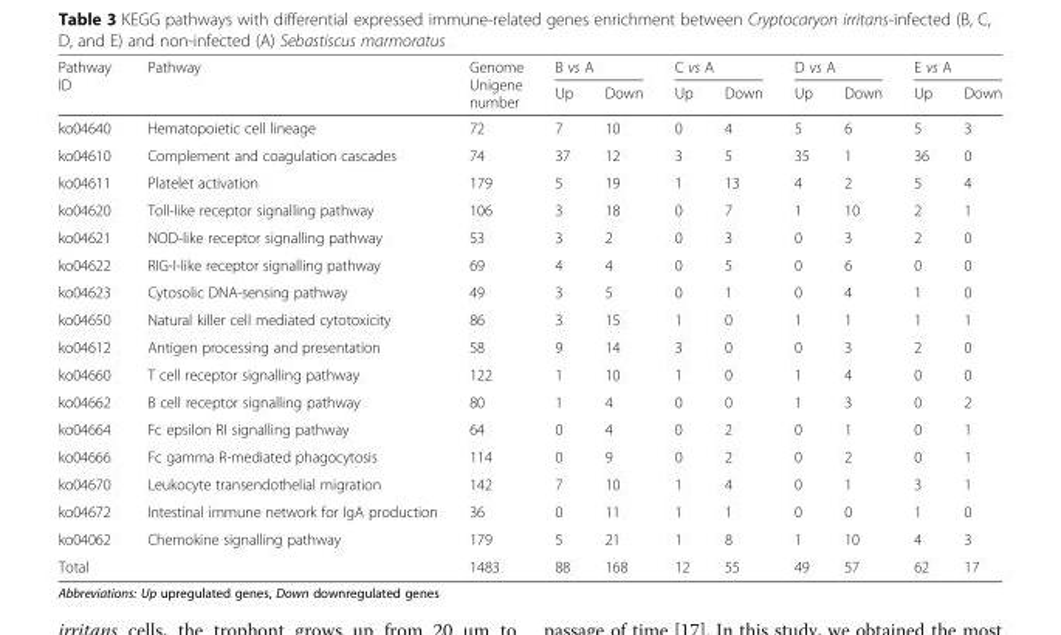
<table><thead><tr><td rowspan="2">Pathway ID</td><td rowspan="2">Pathway</td><td rowspan="2">Genome Unigene number</td><td colspan="2">B vs A</td><td colspan="2">C vs A</td><td colspan="2">D vs A</td><td colspan="2">E vs A</td></tr><tr><td>Up</td><td>Down</td><td>Up</td><td>Down</td><td>Up</td><td>Down</td><td>Up</td><td>Down</td></tr></thead><tbody><tr><td>ko04640</td><td>Hematopoietic cell lineage</td><td>72</td><td>7</td><td>10</td><td>0</td><td>4</td><td>5</td><td>6</td><td>5</td><td>3</td></tr><tr><td>ko04610</td><td>Complement and coagulation cascades</td><td>74</td><td>37</td><td>12</td><td>3</td><td>5</td><td>35</td><td>1</td><td>36</td><td>0</td></tr><tr><td>ko04611</td><td>Platelet activation</td><td>179</td><td>5</td><td>19</td><td>1</td><td>13</td><td>4</td><td>2</td><td>5</td><td>4</td></tr><tr><td>ko04620</td><td>Toll-like receptor signalling pathway</td><td>106</td><td>3</td><td>18</td><td>0</td><td>7</td><td>1</td><td>10</td><td>2</td><td>1</td></tr><tr><td>ko04621</td><td>NOD-like receptor signalling pathway</td><td>53</td><td>3</td><td>2</td><td>0</td><td>3</td><td>0</td><td>3</td><td>2</td><td>0</td></tr><tr><td>ko04622</td><td>RIG-I-like receptor signalling pathway</td><td>69</td><td>4</td><td>4</td><td>0</td><td>5</td><td>0</td><td>6</td><td>0</td><td>0</td></tr><tr><td>ko04623</td><td>Cytosolic DNA-sensing pathway</td><td>49</td><td>3</td><td>5</td><td>0</td><td>1</td><td>0</td><td>4</td><td>1</td><td>0</td></tr><tr><td>ko04650</td><td>Natural killer cell mediated cytotoxicity</td><td>86</td><td>3</td><td>15</td><td>1</td><td>0</td><td>1</td><td>1</td><td>1</td><td>1</td></tr><tr><td>ko04612</td><td>Antigen processing and presentation</td><td>58</td><td>9</td><td>14</td><td>3</td><td>0</td><td>0</td><td>3</td><td>2</td><td>0</td></tr><tr><td>ko04660</td><td>T cell receptor signalling pathway</td><td>122</td><td>1</td><td>10</td><td>1</td><td>0</td><td>1</td><td>4</td><td>0</td><td>0</td></tr><tr><td>ko04662</td><td>B cell receptor signalling pathway</td><td>80</td><td>1</td><td>4</td><td>0</td><td>0</td><td>1</td><td>3</td><td>0</td><td>2</td></tr><tr><td>ko04664</td><td>Fc epsilon RI signalling pathway</td><td>64</td><td>0</td><td>4</td><td>0</td><td>2</td><td>0</td><td>1</td><td>0</td><td>1</td></tr><tr><td>ko04666</td><td>Fc gamma R-mediated phagocytosis</td><td>114</td><td>0</td><td>9</td><td>0</td><td>2</td><td>0</td><td>2</td><td>0</td><td>1</td></tr><tr><td>ko04670</td><td>Leukocyte transendothelial migration</td><td>142</td><td>7</td><td>10</td><td>1</td><td>4</td><td>0</td><td>1</td><td>3</td><td>1</td></tr><tr><td>ko04672</td><td>Intestinal immune network for IgA production</td><td>36</td><td>0</td><td>11</td><td>1</td><td>1</td><td>0</td><td>0</td><td>1</td><td>0</td></tr><tr><td>ko04062</td><td>Chemokine signalling pathway</td><td>179</td><td>5</td><td>21</td><td>1</td><td>8</td><td>1</td><td>10</td><td>4</td><td>3</td></tr><tr><td colspan="2">Total</td><td>1483</td><td>88</td><td>168</td><td>12</td><td>55</td><td>49</td><td>57</td><td>62</td><td>17</td></tr></tbody></table>